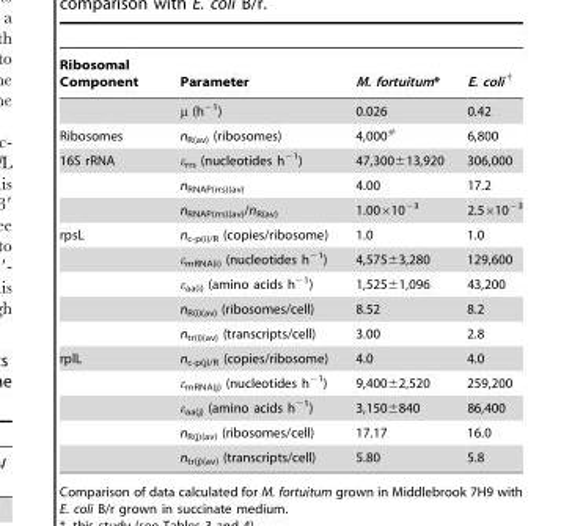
<table><thead><tr><td>Ribosomal Component</td><td>Parameter</td><td>M. fortuitum*</td><td>E. coli †</td></tr></thead><tbody><tr><td></td><td>μ (h<sup>−1</sup>)</td><td>0.026</td><td>0.42</td></tr><tr><td>Ribosomes</td><td>n<sub>R(av)</sub> (ribosomes)</td><td>4,000#</td><td>6,800</td></tr><tr><td rowspan="3">16S rRNA</td><td>ε<sub>rrs</sub> (nucleotides h<sup>−1</sup>)</td><td>47,300±13,920</td><td>306,000</td></tr><tr><td>n<sub>RNAP(rrs)(av)</sub></td><td>4.00</td><td>17.2</td></tr><tr><td>n<sub>RNAP(rrs)(av)</sub>/n<sub>R(av)</sub></td><td>1.00×10<sup>−3</sup></td><td>2.5×10<sup>−3</sup></td></tr><tr><td rowspan="5">rpsL</td><td>n<sub>c-p(i)/R</sub> (copies/ribosome)</td><td>1.0</td><td>1.0</td></tr><tr><td>ε<sub>mRNA(i)</sub> (nucleotides h<sup>−1</sup>)</td><td>4,575±3,280</td><td>129,600</td></tr><tr><td>ε<sub>aa(i)</sub> (amino acids h<sup>−1</sup>)</td><td>1,525±1,096</td><td>43,200</td></tr><tr><td>n<sub>R(i)(av)</sub> (ribosomes/cell)</td><td>8.52</td><td>8.2</td></tr><tr><td>n<sub>tr(i)(av)</sub> (transcripts/cell)</td><td>3.00</td><td>2.8</td></tr><tr><td rowspan="5">rplL</td><td>n<sub>c-p(j)/R</sub> (copies/ribosome)</td><td>4.0</td><td>4.0</td></tr><tr><td>ε<sub>mRNA(j)</sub> (nucleotides h<sup>−1</sup>)</td><td>9,400±2,520</td><td>259,200</td></tr><tr><td>ε<sub>aa(j)</sub> (amino acids h<sup>−1</sup>)</td><td>3,150±840</td><td>86,400</td></tr><tr><td>n<sub>R(j)(av)</sub> (ribosomes/cell)</td><td>17.17</td><td>16.0</td></tr><tr><td>n<sub>tr(j)(av)</sub> (transcripts/cell)</td><td>5.80</td><td>5.8</td></tr></tbody></table>